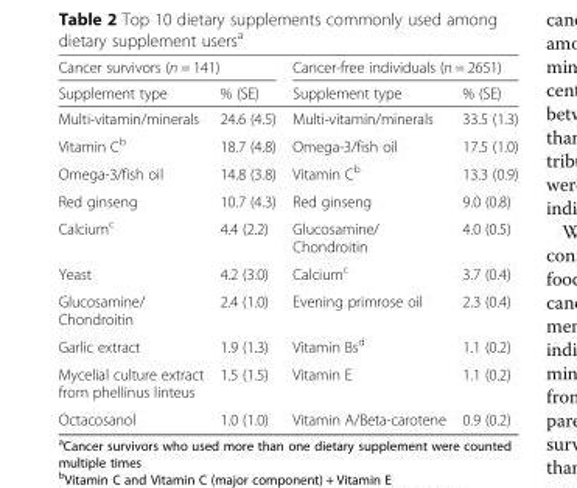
<table><thead><tr><td colspan="2">Cancer survivors (n = 141)</td><td colspan="2">Cancer-free individuals (n = 2651)</td></tr><tr><td>Supplement type</td><td>% (SE)</td><td>Supplement type</td><td>% (SE)</td></tr></thead><tbody><tr><td>Multi-vitamin/minerals</td><td>24.6 (4.5)</td><td>Multi-vitamin/minerals</td><td>33.5 (1.3)</td></tr><tr><td>Vitamin C<sup>b</sup></td><td>18.7 (4.8)</td><td>Omega-3/fish oil</td><td>17.5 (1.0)</td></tr><tr><td>Omega-3/fish oil</td><td>14.8 (3.8)</td><td>Vitamin C<sup>b</sup></td><td>13.3 (0.9)</td></tr><tr><td>Red ginseng</td><td>10.7 (4.3)</td><td>Red ginseng</td><td>9.0 (0.8)</td></tr><tr><td>Calcium<sup>c</sup></td><td>4.4 (2.2)</td><td>Glucosamine/ Chondroitin</td><td>4.0 (0.5)</td></tr><tr><td>Yeast</td><td>4.2 (3.0)</td><td>Calcium<sup>c</sup></td><td>3.7 (0.4)</td></tr><tr><td>Glucosamine/ Chondroitin</td><td>2.4 (1.0)</td><td>Evening primrose oil</td><td>2.3 (0.4)</td></tr><tr><td>Garlic extract</td><td>1.9 (1.3)</td><td>Vitamin Bs<sup>d</sup></td><td>1.1 (0.2)</td></tr><tr><td>Mycelial culture extract from phellinus linteus</td><td>1.5 (1.5)</td><td>Vitamin E</td><td>1.1 (0.2)</td></tr><tr><td>Octacosanol</td><td>1.0 (1.0)</td><td>Vitamin A/Beta-carotene</td><td>0.9 (0.2)</td></tr></tbody></table>